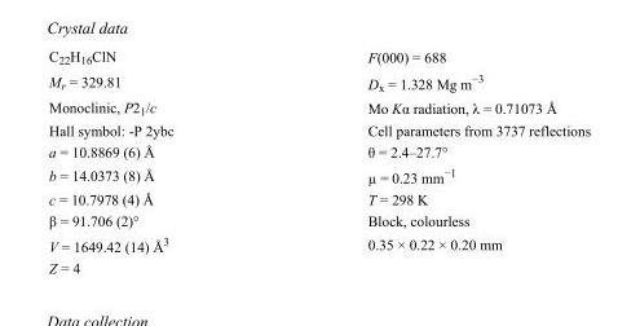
<table><tbody><tr><td>C<sub>22</sub>H<sub>16</sub>ClN</td><td>F(000) = 688</td></tr><tr><td>M<sub>r</sub> = 329.81</td><td>D<sub>x</sub> = 1.328 Mg m<sup>−3</sup></td></tr><tr><td>Monoclinic, P2<sub>1</sub>/c</td><td>Mo Kα radiation, λ = 0.71073 Å</td></tr><tr><td>Hall symbol: -P 2ybc</td><td>Cell parameters from 3737 reflections</td></tr><tr><td>a = 10.8869 (6) Å</td><td>θ = 2.4–27.7°</td></tr><tr><td>b = 14.0373 (8) Å</td><td>µ = 0.23 mm<sup>−1</sup></td></tr><tr><td>c = 10.7978 (4) Å</td><td>T = 298 K</td></tr><tr><td>β = 91.706 (2)°</td><td>Block, colourless</td></tr><tr><td>V = 1649.42 (14) Å<sup>3</sup></td><td>0.35 × 0.22 × 0.20 mm</td></tr><tr><td>Z = 4</td><td></td></tr></tbody></table>